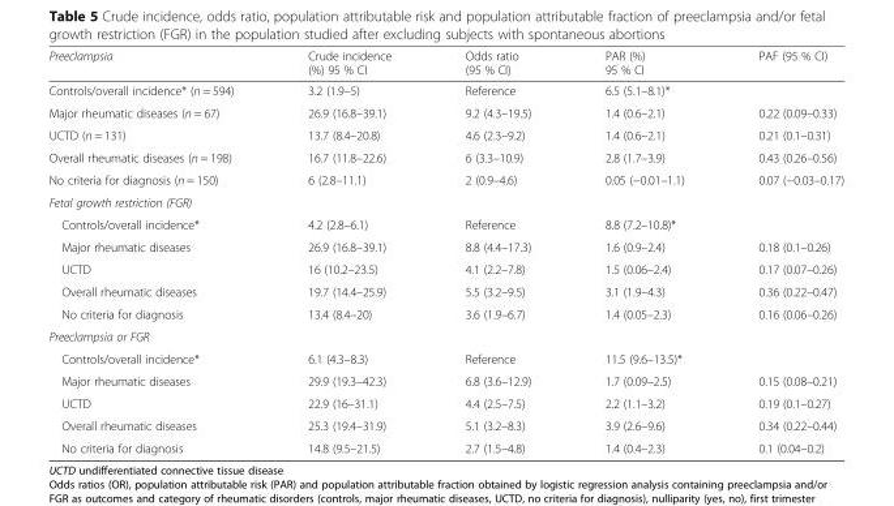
<table><thead><tr><td>Preeclampsia</td><td>Crude incidence (%) 95 % CI</td><td>Odds ratio (95 % CI)</td><td>PAR (%) 95 % CI</td><td>PAF (95 % CI)</td></tr></thead><tbody><tr><td>Controls/overall incidence* (n = 594)</td><td>3.2 (1.9–5)</td><td>Reference</td><td>6.5 (5.1–8.1)*</td><td></td></tr><tr><td>Major rheumatic diseases (n = 67)</td><td>26.9 (16.8–39.1)</td><td>9.2 (4.3–19.5)</td><td>1.4 (0.6–2.1)</td><td>0.22 (0.09–0.33)</td></tr><tr><td>UCTD (n = 131)</td><td>13.7 (8.4–20.8)</td><td>4.6 (2.3–9.2)</td><td>1.4 (0.6–2.1)</td><td>0.21 (0.1–0.31)</td></tr><tr><td>Overall rheumatic diseases (n = 198)</td><td>16.7 (11.8–22.6)</td><td>6 (3.3–10.9)</td><td>2.8 (1.7–3.9)</td><td>0.43 (0.26–0.56)</td></tr><tr><td>No criteria for diagnosis (n = 150)</td><td>6 (2.8–11.1)</td><td>2 (0.9–4.6)</td><td>0.05 (−0.01–1.1)</td><td>0.07 (−0.03–0.17)</td></tr><tr><td colspan="5">Fetal growth restriction (FGR)</td></tr><tr><td>Controls/overall incidence*</td><td>4.2 (2.8–6.1)</td><td>Reference</td><td>8.8 (7.2–10.8)*</td><td></td></tr><tr><td>Major rheumatic diseases</td><td>26.9 (16.8–39.1)</td><td>8.8 (4.4–17.3)</td><td>1.6 (0.9–2.4)</td><td>0.18 (0.1–0.26)</td></tr><tr><td>UCTD</td><td>16 (10.2–23.5)</td><td>4.1 (2.2–7.8)</td><td>1.5 (0.06–2.4)</td><td>0.17 (0.07–0.26)</td></tr><tr><td>Overall rheumatic diseases</td><td>19.7 (14.4–25.9)</td><td>5.5 (3.2–9.5)</td><td>3.1 (1.9–4.3)</td><td>0.36 (0.22–0.47)</td></tr><tr><td>No criteria for diagnosis</td><td>13.4 (8.4–20)</td><td>3.6 (1.9–6.7)</td><td>1.4 (0.05–2.3)</td><td>0.16 (0.06–0.26)</td></tr><tr><td colspan="5">Preeclampsia or FGR</td></tr><tr><td>Controls/overall incidence*</td><td>6.1 (4.3–8.3)</td><td>Reference</td><td>11.5 (9.6–13.5)*</td><td></td></tr><tr><td>Major rheumatic diseases</td><td>29.9 (19.3–42.3)</td><td>6.8 (3.6–12.9)</td><td>1.7 (0.09–2.5)</td><td>0.15 (0.08–0.21)</td></tr><tr><td>UCTD</td><td>22.9 (16–31.1)</td><td>4.4 (2.5–7.5)</td><td>2.2 (1.1–3.2)</td><td>0.19 (0.1–0.27)</td></tr><tr><td>Overall rheumatic diseases</td><td>25.3 (19.4–31.9)</td><td>5.1 (3.2–8.3)</td><td>3.9 (2.6–9.6)</td><td>0.34 (0.22–0.44)</td></tr><tr><td>No criteria for diagnosis</td><td>14.8 (9.5–21.5)</td><td>2.7 (1.5–4.8)</td><td>1.4 (0.4–2.3)</td><td>0.1 (0.04–0.2)</td></tr></tbody></table>